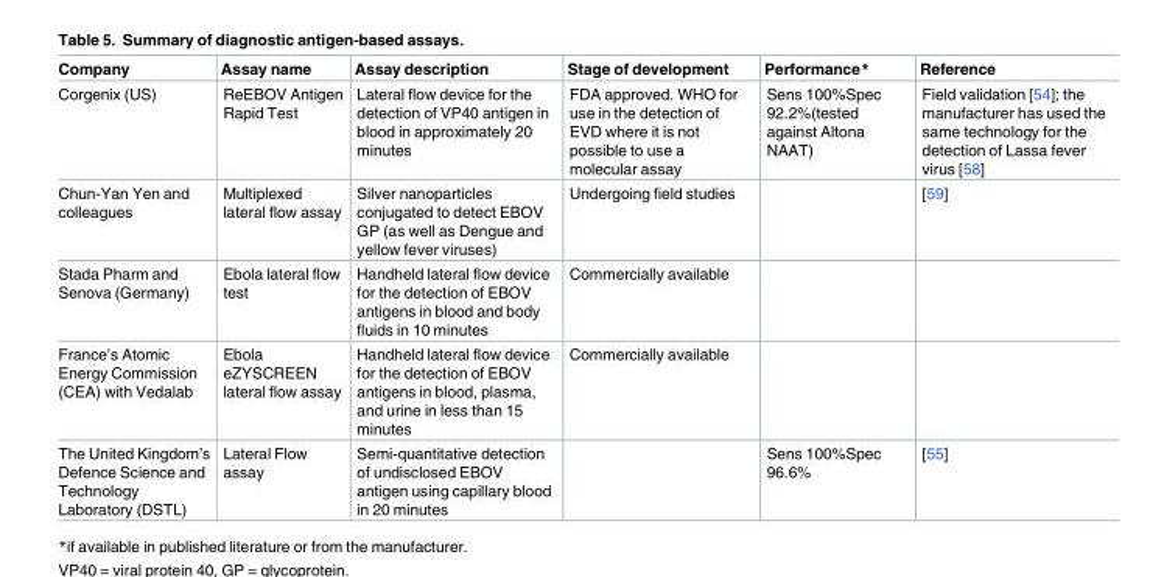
<table><thead><tr><td>Company</td><td>Assay name</td><td>Assay description</td><td>Stage of development</td><td>Performance*</td><td>Reference</td></tr></thead><tbody><tr><td>Corgenix (US)</td><td>ReEBOV Antigen Rapid Test</td><td>Lateral flow device for the detection of VP40 antigen in blood in approximately 20 minutes</td><td>FDA approved. WHO for use in the detection of EVD where it is not possible to use a molecular assay</td><td>Sens 100%Spec 92.2%(tested against Altona NAAT)</td><td>Field validation [54]; the manufacturer has used the same technology for the detection of Lassa fever virus [58]</td></tr><tr><td>Chun-Yan Yen and colleagues</td><td>Multiplexed lateral flow assay</td><td>Silver nanoparticles conjugated to detect EBOV GP (as well as Dengue and yellow fever viruses)</td><td>Undergoing field studies</td><td></td><td>[59]</td></tr><tr><td>Stada Pharm and Senova (Germany)</td><td>Ebola lateral flow test</td><td>Handheld lateral flow device for the detection of EBOV antigens in blood and body fluids in 10 minutes</td><td>Commercially available</td><td></td><td></td></tr><tr><td>France’s Atomic Energy Commission (CEA) with Vedalab</td><td>Ebola eZYSCREEN lateral flow assay</td><td>Handheld lateral flow device for the detection of EBOV antigens in blood, plasma, and urine in less than 15 minutes</td><td>Commercially available</td><td></td><td></td></tr><tr><td>The United Kingdom’s Defence Science and Technology Laboratory (DSTL)</td><td>Lateral Flow assay</td><td>Semi-quantitative detection of undisclosed EBOV antigen using capillary blood in 20 minutes</td><td></td><td>Sens 100%Spec 96.6%</td><td>[55]</td></tr></tbody></table>